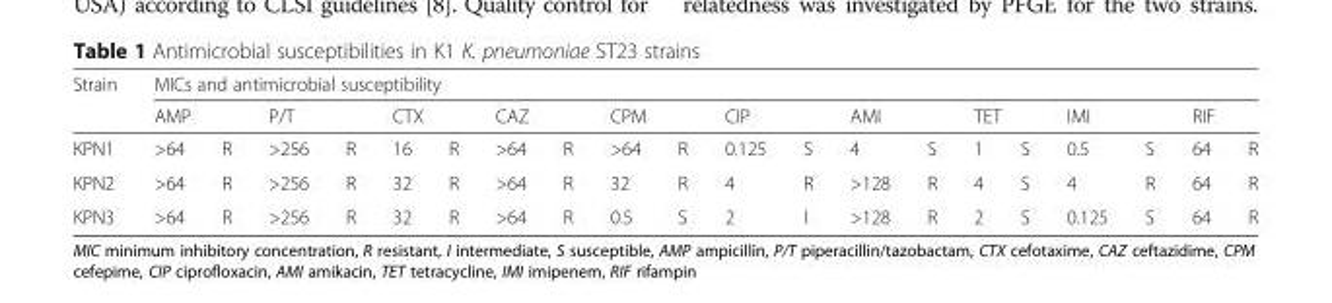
<table><thead><tr><td rowspan="3">Strain KPN1</td><td colspan="20">MICs and antimicrobial susceptibility</td></tr><tr><td colspan="2">AMP</td><td colspan="2">P/T</td><td colspan="2">CTX</td><td colspan="2">CAZ</td><td colspan="2">CPM</td><td colspan="2">CIP</td><td colspan="2">AMI</td><td colspan="2">TET</td><td colspan="2">IMI</td><td colspan="2">RIF</td></tr><tr><td>&gt;64</td><td>R</td><td>&gt;256</td><td>R</td><td>16</td><td>R</td><td>&gt;64</td><td>R</td><td>&gt;64</td><td>R</td><td>0.125</td><td>S</td><td>4</td><td>S</td><td>1</td><td>S</td><td>0.5</td><td>S</td><td>64</td><td>R</td></tr></thead><tbody><tr><td>KPN2</td><td>&gt;64</td><td>R</td><td>&gt;256</td><td>R</td><td>32</td><td>R</td><td>&gt;64</td><td>R</td><td>32</td><td>R</td><td>4</td><td>R</td><td>&gt;128</td><td>R</td><td>4</td><td>S</td><td>4</td><td>R</td><td>64</td><td>R</td></tr><tr><td>KPN3</td><td>&gt;64</td><td>R</td><td>&gt;256</td><td>R</td><td>32</td><td>R</td><td>&gt;64</td><td>R</td><td>0.5</td><td>S</td><td>2</td><td>I</td><td>&gt;128</td><td>R</td><td>2</td><td>S</td><td>0.125</td><td>S</td><td>64</td><td>R</td></tr></tbody></table>